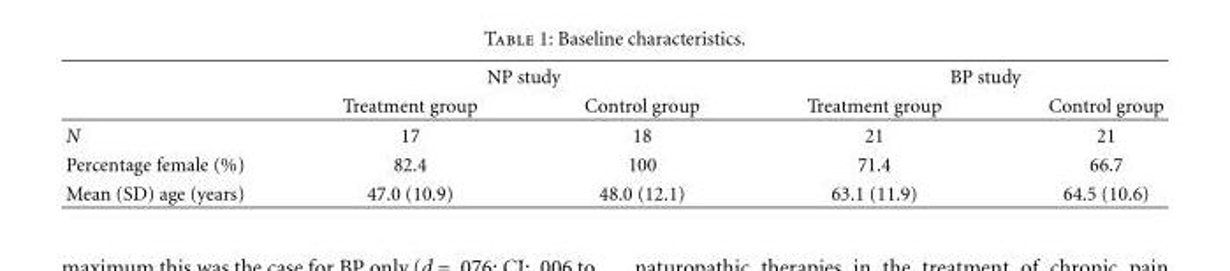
<table><thead><tr><td rowspan="2"></td><td colspan="2">NP study</td><td colspan="2">BP study</td></tr><tr><td>Treatment group</td><td>Control group</td><td>Treatment group</td><td>Control group</td></tr></thead><tbody><tr><td>N</td><td>17</td><td>18</td><td>21</td><td>21</td></tr><tr><td>Percentage female (%)</td><td>82.4</td><td>100</td><td>71.4</td><td>66.7</td></tr><tr><td>Mean (SD) age (years)</td><td>47.0 (10.9)</td><td>48.0 (12.1)</td><td>63.1 (11.9)</td><td>64.5 (10.6)</td></tr></tbody></table>